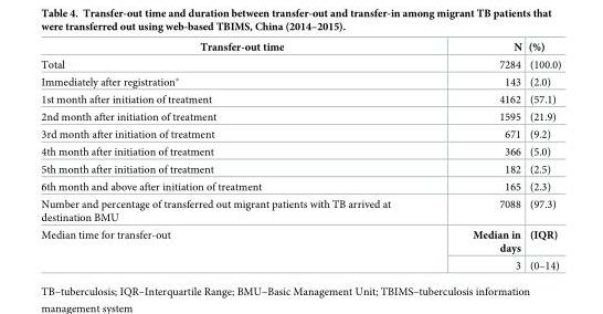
<table><thead><tr><td>Transfer-out time</td><td>N</td><td>(%)</td></tr></thead><tbody><tr><td>Total</td><td>7284</td><td>(100.0)</td></tr><tr><td>Immediately after registration*</td><td>143</td><td>(2.0)</td></tr><tr><td>1st month after initiation of treatment</td><td>4162</td><td>(57.1)</td></tr><tr><td>2nd month after initiation of treatment</td><td>1595</td><td>(21.9)</td></tr><tr><td>3rd month after initiation of treatment</td><td>671</td><td>(9.2)</td></tr><tr><td>4th month after initiation of treatment</td><td>366</td><td>(5.0)</td></tr><tr><td>5th month after initiation of treatment</td><td>182</td><td>(2.5)</td></tr><tr><td>6th month and above after initiation of treatment</td><td>165</td><td>(2.3)</td></tr><tr><td>Number and percentage of transferred out migrant patients with TB arrived at destination BMU</td><td>7088</td><td>(97.3)</td></tr><tr><td rowspan="2">Median time for transfer-out</td><td>Median in days</td><td>(IQR)</td></tr><tr><td>3</td><td>(0–14)</td></tr></tbody></table>